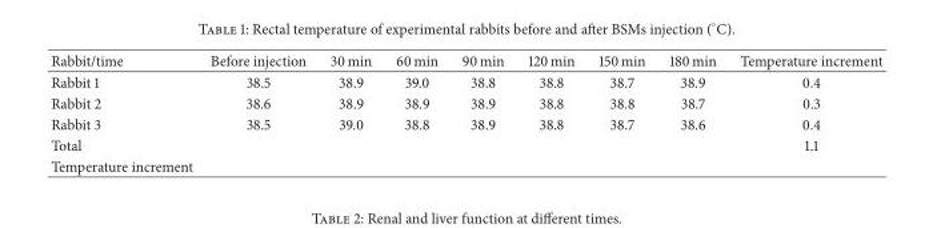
<table><thead><tr><td>Rabbit/time</td><td>Before injection</td><td>30 min</td><td>60 min</td><td>90 min</td><td>120 min</td><td>150 min</td><td>180 min</td><td>Temperature increment</td></tr></thead><tbody><tr><td>Rabbit 1</td><td>38.5</td><td>38.9</td><td>39.0</td><td>38.8</td><td>38.8</td><td>38.7</td><td>38.9</td><td>0.4</td></tr><tr><td>Rabbit 2</td><td>38.6</td><td>38.9</td><td>38.9</td><td>38.9</td><td>38.8</td><td>38.8</td><td>38.7</td><td>0.3</td></tr><tr><td>Rabbit 3</td><td>38.5</td><td>39.0</td><td>38.8</td><td>38.9</td><td>38.8</td><td>38.7</td><td>38.6</td><td>0.4</td></tr><tr><td>Total</td><td></td><td></td><td></td><td></td><td></td><td></td><td></td><td>1.1</td></tr><tr><td>Temperature increment</td><td></td><td></td><td></td><td></td><td></td><td></td><td></td><td></td></tr></tbody></table>